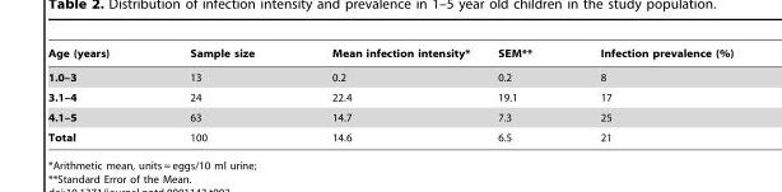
<table><thead><tr><td>Age (years)</td><td>Sample size</td><td>Mean infection intensity*</td><td>SEM**</td><td>Infection prevalence (%)</td></tr></thead><tbody><tr><td>1.0–3</td><td>13</td><td>0.2</td><td>0.2</td><td>8</td></tr><tr><td>3.1–4</td><td>24</td><td>22.4</td><td>19.1</td><td>17</td></tr><tr><td>4.1–5</td><td>63</td><td>14.7</td><td>7.3</td><td>25</td></tr><tr><td>Total</td><td>100</td><td>14.6</td><td>6.5</td><td>21</td></tr></tbody></table>